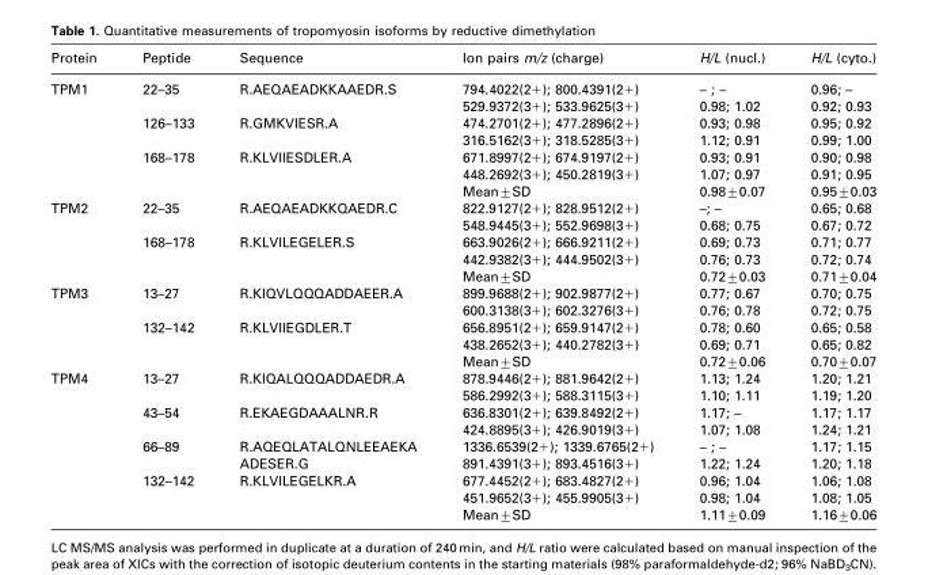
<table><thead><tr><td>Protein</td><td>Peptide</td><td>Sequence</td><td>Ion pairs m/z (charge)</td><td>H/L (nucl.)</td><td>H/L (cyto.)</td></tr></thead><tbody><tr><td rowspan="7">TPM1</td><td>22–35</td><td>R.AEQAEADKKAAEDR.S</td><td>794.4022(2+); 800.4391(2+)</td><td>– ; –</td><td>0.96; –</td></tr><tr><td></td><td></td><td>529.9372(3+); 533.9625(3+)</td><td>0.98; 1.02</td><td>0.92; 0.93</td></tr><tr><td>126–133</td><td>R.GMKVIESR.A</td><td>474.2701(2+); 477.2896(2+)</td><td>0.93; 0.98</td><td>0.95; 0.92</td></tr><tr><td></td><td></td><td>316.5162(3+); 318.5285(3+)</td><td>1.12; 0.91</td><td>0.99; 1.00</td></tr><tr><td>168–178</td><td>R.KLVIIESDLER.A</td><td>671.8997(2+); 674.9197(2+)</td><td>0.93; 0.91</td><td>0.90; 0.98</td></tr><tr><td></td><td></td><td>448.2692(3+); 450.2819(3+)</td><td>1.07; 0.97</td><td>0.91; 0.95</td></tr><tr><td></td><td></td><td>Mean±SD</td><td>0.98±0.07</td><td>0.95±0.03</td></tr><tr><td rowspan="5">TPM2</td><td>22–35</td><td>R.AEQAEADKKQAEDR.C</td><td>822.9127(2+); 828.9512(2+)</td><td>–; –</td><td>0.65; 0.68</td></tr><tr><td></td><td></td><td>548.9445(3+); 552.9698(3+)</td><td>0.68; 0.75</td><td>0.67; 0.72</td></tr><tr><td>168–178</td><td>R.KLVILEGELER.S</td><td>663.9026(2+); 666.9211(2+)</td><td>0.69; 0.73</td><td>0.71; 0.77</td></tr><tr><td></td><td></td><td>442.9382(3+); 444.9502(3+)</td><td>0.76; 0.73</td><td>0.72; 0.74</td></tr><tr><td></td><td></td><td>Mean±SD</td><td>0.72±0.03</td><td>0.71±0.04</td></tr><tr><td rowspan="5">TPM3</td><td>13–27</td><td>R.KIQVLQQQADDAEER.A</td><td>899.9688(2+); 902.9877(2+)</td><td>0.77; 0.67</td><td>0.70; 0.75</td></tr><tr><td></td><td></td><td>600.3138(3+); 602.3276(3+)</td><td>0.76; 0.78</td><td>0.72; 0.75</td></tr><tr><td>132–142</td><td>R.KLVIIEGDLER.T</td><td>656.8951(2+); 659.9147(2+)</td><td>0.78; 0.60</td><td>0.65; 0.58</td></tr><tr><td></td><td></td><td>438.2652(3+); 440.2782(3+)</td><td>0.69; 0.71</td><td>0.65; 0.82</td></tr><tr><td></td><td></td><td>Mean±SD</td><td>0.72±0.06</td><td>0.70±0.07</td></tr><tr><td rowspan="9">TPM4</td><td>13–27</td><td>R.KIQALQQQADDAEDR.A</td><td>878.9446(2+); 881.9642(2+)</td><td>1.13; 1.24</td><td>1.20; 1.21</td></tr><tr><td></td><td></td><td>586.2992(3+); 588.3115(3+)</td><td>1.10; 1.11</td><td>1.19; 1.20</td></tr><tr><td>43–54</td><td>R.EKAEGDAAALNR.R</td><td>636.8301(2+); 639.8492(2+)</td><td>1.17; –</td><td>1.17; 1.17</td></tr><tr><td></td><td></td><td>424.8895(3+); 426.9019(3+)</td><td>1.07; 1.08</td><td>1.24; 1.21</td></tr><tr><td>66–89</td><td>R.AQEQLATALQNLEEAEKA</td><td>1336.6539(2+); 1339.6765(2+)</td><td>– ; –</td><td>1.17; 1.15</td></tr><tr><td></td><td>ADESER.G</td><td>891.4391(3+); 893.4516(3+)</td><td>1.22; 1.24</td><td>1.20; 1.18</td></tr><tr><td>132–142</td><td>R.KLVILEGELKR.A</td><td>677.4452(2+); 683.4827(2+)</td><td>0.96; 1.04</td><td>1.06; 1.08</td></tr><tr><td></td><td></td><td>451.9652(3+); 455.9905(3+)</td><td>0.98; 1.04</td><td>1.08; 1.05</td></tr><tr><td></td><td></td><td>Mean±SD</td><td>1.11±0.09</td><td>1.16±0.06</td></tr></tbody></table>